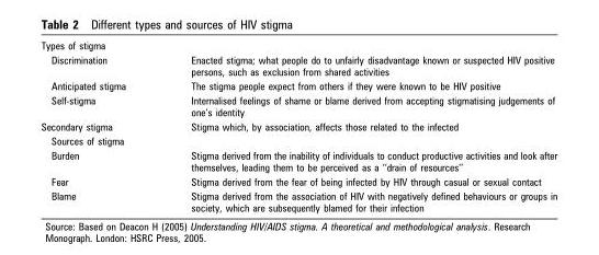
<table><tbody><tr><td colspan="2">Types of stigma</td></tr><tr><td>Discrimination</td><td>Enacted stigma; what people do to unfairly disadvantage known or suspected HIV positive persons, such as exclusion from shared activities</td></tr><tr><td>Anticipated stigma</td><td>The stigma people expect from others if they were known to be HIV positive</td></tr><tr><td>Self-stigma</td><td>Internalised feelings of shame or blame derived from accepting stigmatising judgements of one’s identity</td></tr><tr><td>Secondary stigma</td><td>Stigma which, by association, affects those related to the infected</td></tr><tr><td colspan="2">Sources of stigma</td></tr><tr><td>Burden</td><td>Stigma derived from the inability of individuals to conduct productive activities and look after themselves, leading them to be perceived as a ‘‘drain of resources’’</td></tr><tr><td>Fear</td><td>Stigma derived from the fear of being infected by HIV through casual or sexual contact</td></tr><tr><td>Blame</td><td>Stigma derived from the association of HIV with negatively defined behaviours or groups in society, which are subsequently blamed for their infection</td></tr></tbody></table>